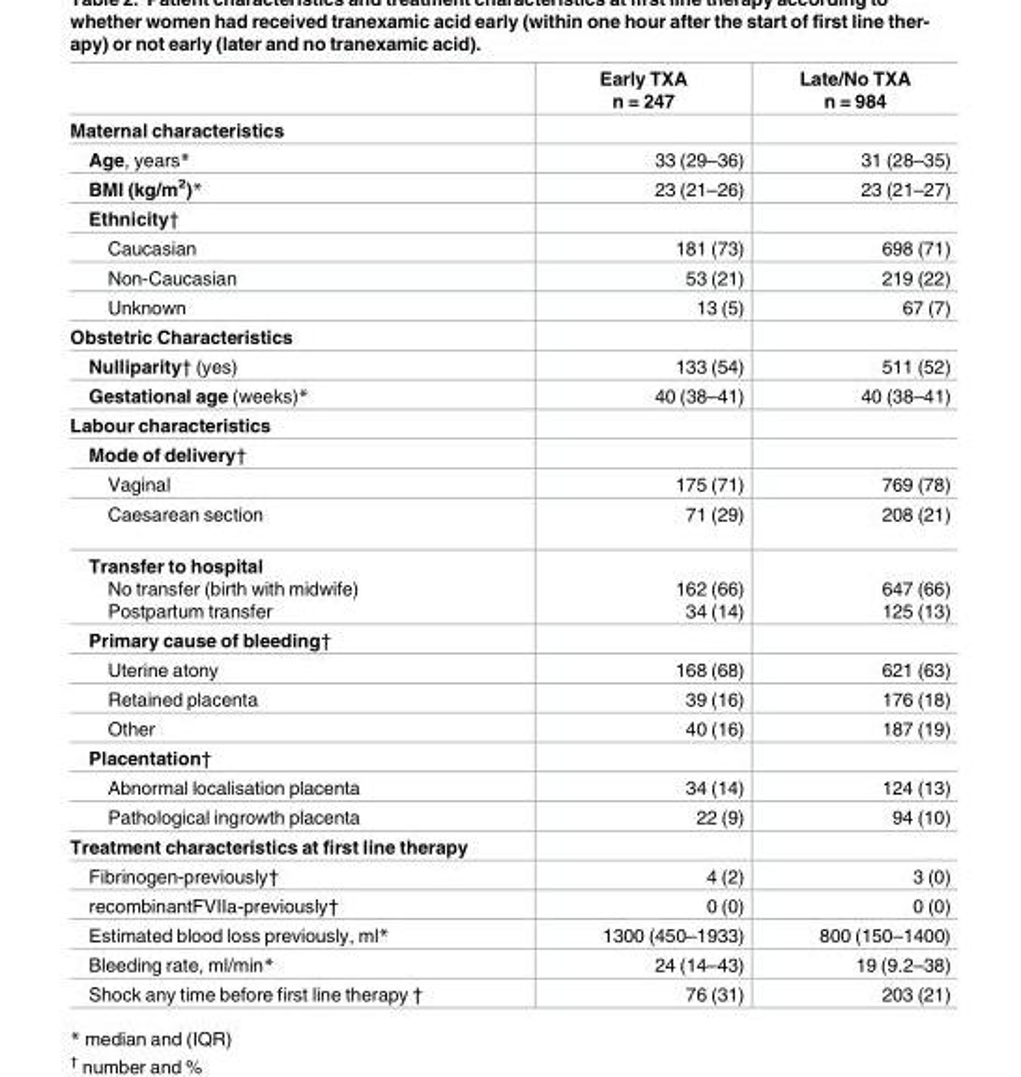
<table><thead><tr><td></td><td>Early TXA n = 247</td><td>Late/No TXA n = 984</td></tr></thead><tbody><tr><td colspan="3">Maternal characteristics</td></tr><tr><td>Age, years*</td><td>33 (29–36)</td><td>31 (28–35)</td></tr><tr><td>BMI (kg/m<sup>2</sup>)*</td><td>23 (21–26)</td><td>23 (21–27)</td></tr><tr><td colspan="3">Ethnicity†</td></tr><tr><td>Caucasian</td><td>181 (73)</td><td>698 (71)</td></tr><tr><td>Non-Caucasian</td><td>53 (21)</td><td>219 (22)</td></tr><tr><td>Unknown</td><td>13 (5)</td><td>67 (7)</td></tr><tr><td colspan="3">Obstetric Characteristics</td></tr><tr><td>Nulliparity† (yes)</td><td>133 (54)</td><td>511 (52)</td></tr><tr><td>Gestational age (weeks)*</td><td>40 (38–41)</td><td>40 (38–41)</td></tr><tr><td colspan="3">Labour characteristics</td></tr><tr><td colspan="3">Mode of delivery†</td></tr><tr><td>Vaginal</td><td>175 (71)</td><td>769 (78)</td></tr><tr><td>Caesarean section</td><td>71 (29)</td><td>208 (21)</td></tr><tr><td>Transfer to hospital No transfer (birth with midwife) Postpartum transfer</td><td>162 (66) 34 (14)</td><td>647 (66) 125 (13)</td></tr><tr><td colspan="3">Primary cause of bleeding†</td></tr><tr><td>Uterine atony</td><td>168 (68)</td><td>621 (63)</td></tr><tr><td>Retained placenta</td><td>39 (16)</td><td>176 (18)</td></tr><tr><td>Other</td><td>40 (16)</td><td>187 (19)</td></tr><tr><td colspan="3">Placentation†</td></tr><tr><td>Abnormal localisation placenta</td><td>34 (14)</td><td>124 (13)</td></tr><tr><td>Pathological ingrowth placenta</td><td>22 (9)</td><td>94 (10)</td></tr><tr><td colspan="3">Treatment characteristics at first line therapy</td></tr><tr><td>Fibrinogen-previously†</td><td>4 (2)</td><td>3 (0)</td></tr><tr><td>recombinantFVIIa-previously†</td><td>0 (0)</td><td>0 (0)</td></tr><tr><td>Estimated blood loss previously, ml*</td><td>1300 (450–1933)</td><td>800 (150–1400)</td></tr><tr><td>Bleeding rate, ml/min*</td><td>24 (14–43)</td><td>19 (9.2–38)</td></tr><tr><td>Shock any time before first line therapy †</td><td>76 (31)</td><td>203 (21)</td></tr></tbody></table>